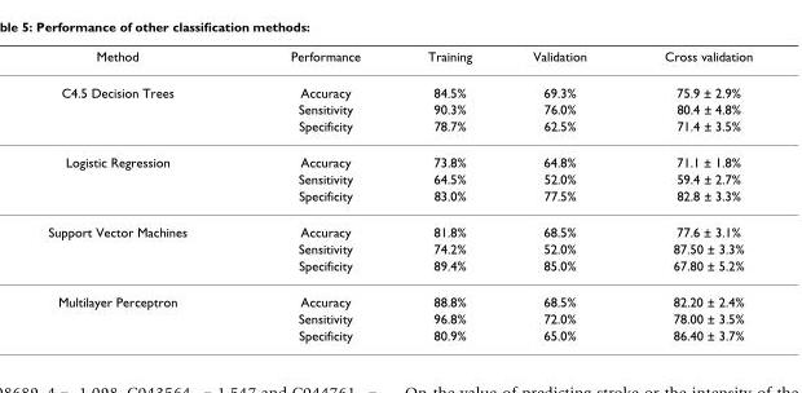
<table><thead><tr><td>Method</td><td>Performance</td><td>Training</td><td>Validation</td><td>Cross validation</td></tr></thead><tbody><tr><td rowspan="3">C4.5 Decision Trees</td><td>Accuracy</td><td>84.5%</td><td>69.3%</td><td>75.9 ± 2.9%</td></tr><tr><td>Sensitivity</td><td>90.3%</td><td>76.0%</td><td>80.4 ± 4.8%</td></tr><tr><td>Specificity</td><td>78.7%</td><td>62.5%</td><td>71.4 ± 3.5%</td></tr><tr><td rowspan="3">Logistic Regression</td><td>Accuracy</td><td>73.8%</td><td>64.8%</td><td>71.1 ± 1.8%</td></tr><tr><td>Sensitivity</td><td>64.5%</td><td>52.0%</td><td>59.4 ± 2.7%</td></tr><tr><td>Specificity</td><td>83.0%</td><td>77.5%</td><td>82.8 ± 3.3%</td></tr><tr><td rowspan="3">Support Vector Machines</td><td>Accuracy</td><td>81.8%</td><td>68.5%</td><td>77.6 ± 3.1%</td></tr><tr><td>Sensitivity</td><td>74.2%</td><td>52.0%</td><td>87.50 ± 3.3%</td></tr><tr><td>Specificity</td><td>89.4%</td><td>85.0%</td><td>67.80 ± 5.2%</td></tr><tr><td rowspan="3">Multilayer Perceptron</td><td>Accuracy</td><td>88.8%</td><td>68.5%</td><td>82.20 ± 2.4%</td></tr><tr><td>Sensitivity</td><td>96.8%</td><td>72.0%</td><td>78.00 ± 3.5%</td></tr><tr><td>Specificity</td><td>80.9%</td><td>65.0%</td><td>86.40 ± 3.7%</td></tr></tbody></table>